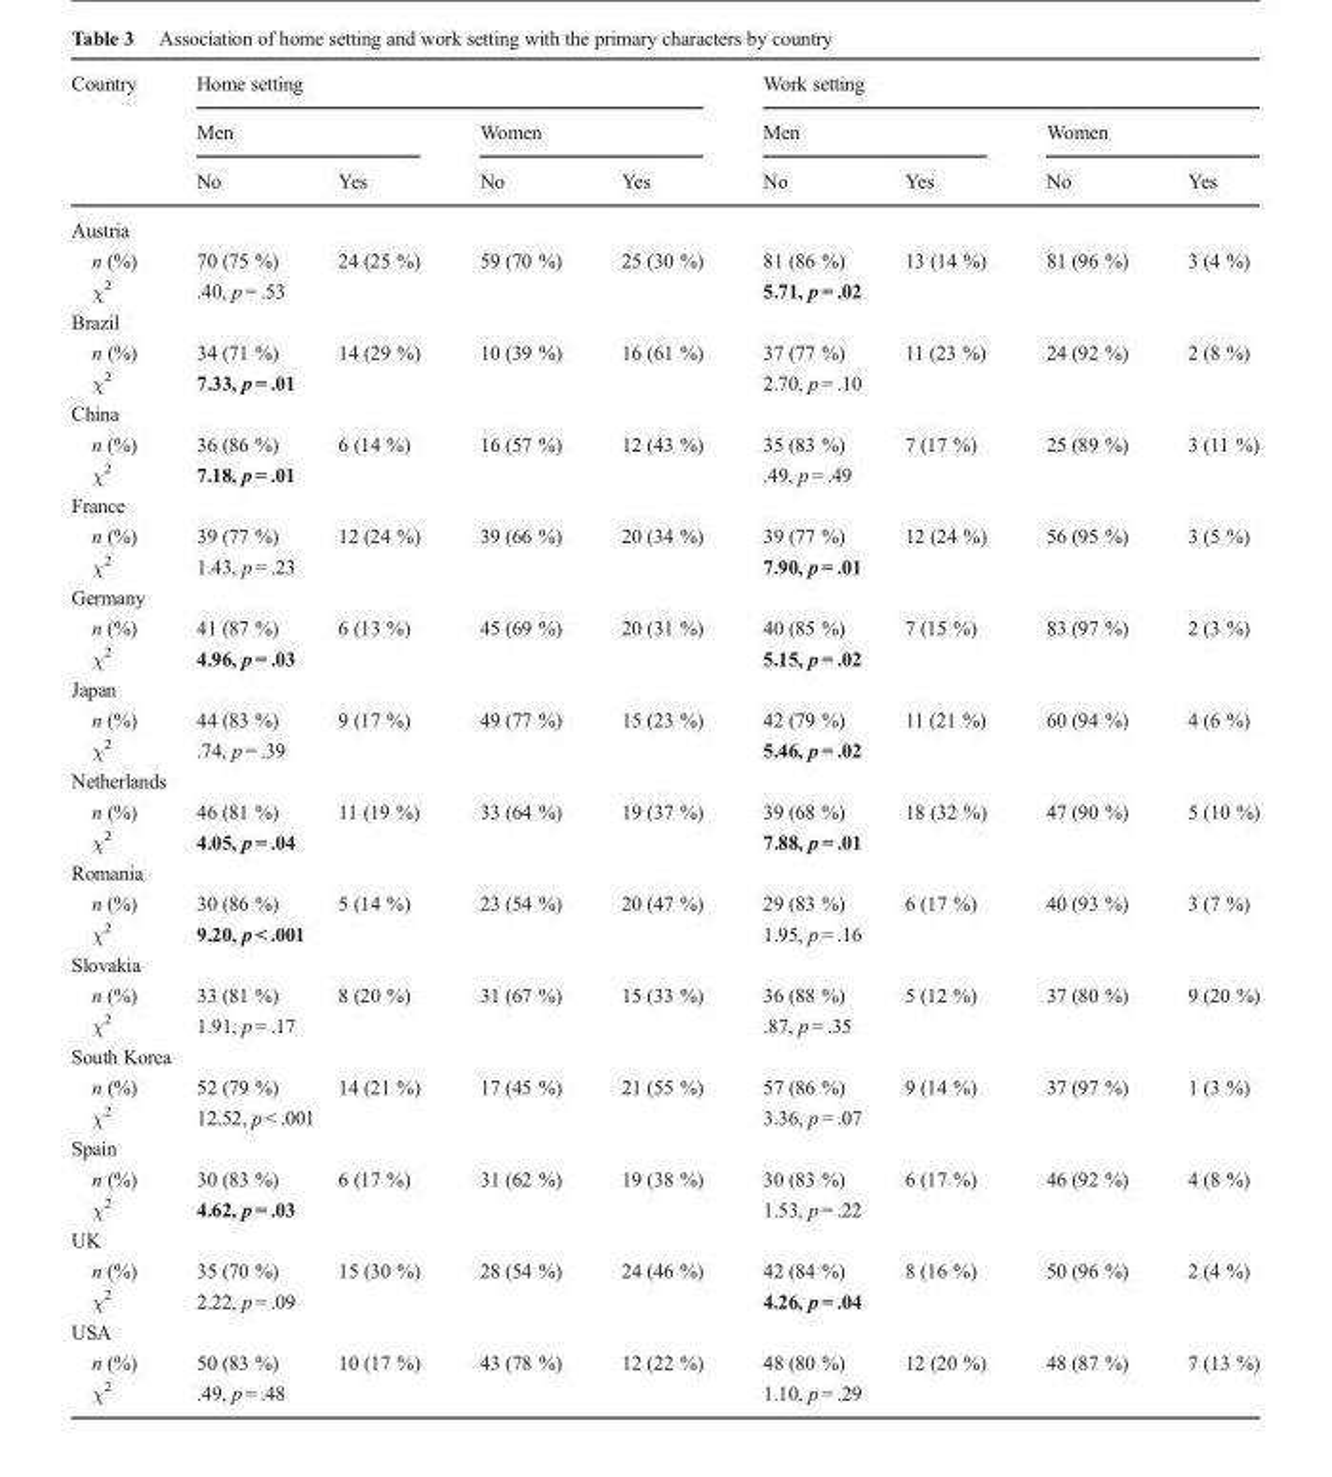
<table><thead><tr><td rowspan="3">Country</td><td colspan="4">Home setting</td><td colspan="4">Work setting</td></tr><tr><td colspan="2">Men</td><td colspan="2">Women</td><td colspan="2">Men</td><td colspan="2">Women</td></tr><tr><td>No</td><td>Yes</td><td>No</td><td>Yes</td><td>No</td><td>Yes</td><td>No</td><td>Yes</td></tr></thead><tbody><tr><td colspan="9">Austria</td></tr><tr><td>n (%)</td><td>70 (75 %)</td><td>24 (25 %)</td><td>59 (70 %)</td><td>25 (30 %)</td><td>81 (86 %)</td><td>13 (14 %)</td><td>81 (96 %)</td><td>3 (4 %)</td></tr><tr><td>χ<sup>2</sup></td><td colspan="4">.40, p = .53</td><td colspan="4">5.71, p = .02</td></tr><tr><td colspan="9">Brazil</td></tr><tr><td>n (%)</td><td>34 (71 %)</td><td>14 (29 %)</td><td>10 (39 %)</td><td>16 (61 %)</td><td>37 (77 %)</td><td>11 (23 %)</td><td>24 (92 %)</td><td>2 (8 %)</td></tr><tr><td>χ<sup>2</sup></td><td colspan="4">7.33, p = .01</td><td colspan="4">2.70, p = .10</td></tr><tr><td colspan="9">China</td></tr><tr><td>n (%)</td><td>36 (86 %)</td><td>6 (14 %)</td><td>16 (57 %)</td><td>12 (43 %)</td><td>35 (83 %)</td><td>7 (17 %)</td><td>25 (89 %)</td><td>3 (11 %)</td></tr><tr><td>χ<sup>2</sup></td><td colspan="4">7.18, p = .01</td><td colspan="4">.49, p = .49</td></tr><tr><td colspan="9">France</td></tr><tr><td>n (%)</td><td>39 (77 %)</td><td>12 (24 %)</td><td>39 (66 %)</td><td>20 (34 %)</td><td>39 (77 %)</td><td>12 (24 %)</td><td>56 (95 %)</td><td>3 (5 %)</td></tr><tr><td>χ<sup>2</sup></td><td colspan="4">1.43, p = .23</td><td colspan="4">7.90, p = .01</td></tr><tr><td colspan="9">Germany</td></tr><tr><td>n (%)</td><td>41 (87 %)</td><td>6 (13 %)</td><td>45 (69 %)</td><td>20 (31 %)</td><td>40 (85 %)</td><td>7 (15 %)</td><td>83 (97 %)</td><td>2 (3 %)</td></tr><tr><td>χ<sup>2</sup></td><td colspan="4">4.96, p = .03</td><td colspan="4">5.15, p = .02</td></tr><tr><td colspan="9">Japan</td></tr><tr><td>n (%)</td><td>44 (83 %)</td><td>9 (17 %)</td><td>49 (77 %)</td><td>15 (23 %)</td><td>42 (79 %)</td><td>11 (21 %)</td><td>60 (94 %)</td><td>4 (6 %)</td></tr><tr><td>χ<sup>2</sup></td><td colspan="4">.74, p = .39</td><td colspan="4">5.46, p = .02</td></tr><tr><td colspan="9">Netherlands</td></tr><tr><td>n (%)</td><td>46 (81 %)</td><td>11 (19 %)</td><td>33 (64 %)</td><td>19 (37 %)</td><td>39 (68 %)</td><td>18 (32 %)</td><td>47 (90 %)</td><td>5 (10 %)</td></tr><tr><td>χ<sup>2</sup></td><td colspan="4">4.05, p = .04</td><td colspan="4">7.88, p = .01</td></tr><tr><td colspan="9">Romania</td></tr><tr><td>n (%)</td><td>30 (86 %)</td><td>5 (14 %)</td><td>23 (54 %)</td><td>20 (47 %)</td><td>29 (83 %)</td><td>6 (17 %)</td><td>40 (93 %)</td><td>3 (7 %)</td></tr><tr><td>χ<sup>2</sup></td><td colspan="4">9.20, p &lt; .001</td><td colspan="4">1.95, p = .16</td></tr><tr><td colspan="9">Slovakia</td></tr><tr><td>n (%)</td><td>33 (81 %)</td><td>8 (20 %)</td><td>31 (67 %)</td><td>15 (33 %)</td><td>36 (88 %)</td><td>5 (12 %)</td><td>37 (80 %)</td><td>9 (20 %)</td></tr><tr><td>χ<sup>2</sup></td><td colspan="4">1.91, p = .17</td><td colspan="4">.87, p = .35</td></tr><tr><td colspan="9">South Korea</td></tr><tr><td>n (%)</td><td>52 (79 %)</td><td>14 (21 %)</td><td>17 (45 %)</td><td>21 (55 %)</td><td>57 (86 %)</td><td>9 (14 %)</td><td>37 (97 %)</td><td>1 (3 %)</td></tr><tr><td>χ<sup>2</sup></td><td colspan="4">12.52, p &lt; .001</td><td colspan="4">3.36, p = .07</td></tr><tr><td colspan="9">Spain</td></tr><tr><td>n (%)</td><td>30 (83 %)</td><td>6 (17 %)</td><td>31 (62 %)</td><td>19 (38 %)</td><td>30 (83 %)</td><td>6 (17 %)</td><td>46 (92 %)</td><td>4 (8 %)</td></tr><tr><td>χ<sup>2</sup></td><td colspan="4">4.62, p = .03</td><td colspan="4">1.53, p = .22</td></tr><tr><td colspan="9">UK</td></tr><tr><td>n (%)</td><td>35 (70 %)</td><td>15 (30 %)</td><td>28 (54 %)</td><td>24 (46 %)</td><td>42 (84 %)</td><td>8 (16 %)</td><td>50 (96 %)</td><td>2 (4 %)</td></tr><tr><td>χ<sup>2</sup></td><td colspan="4">2.22, p = .09</td><td colspan="4">4.26, p = .04</td></tr><tr><td colspan="9">USA</td></tr><tr><td>n (%)</td><td>50 (83 %)</td><td>10 (17 %)</td><td>43 (78 %)</td><td>12 (22 %)</td><td>48 (80 %)</td><td>12 (20 %)</td><td>48 (87 %)</td><td>7 (13 %)</td></tr><tr><td>χ<sup>2</sup></td><td colspan="4">.49, p = .48</td><td colspan="4">1.10, p = .29</td></tr></tbody></table>